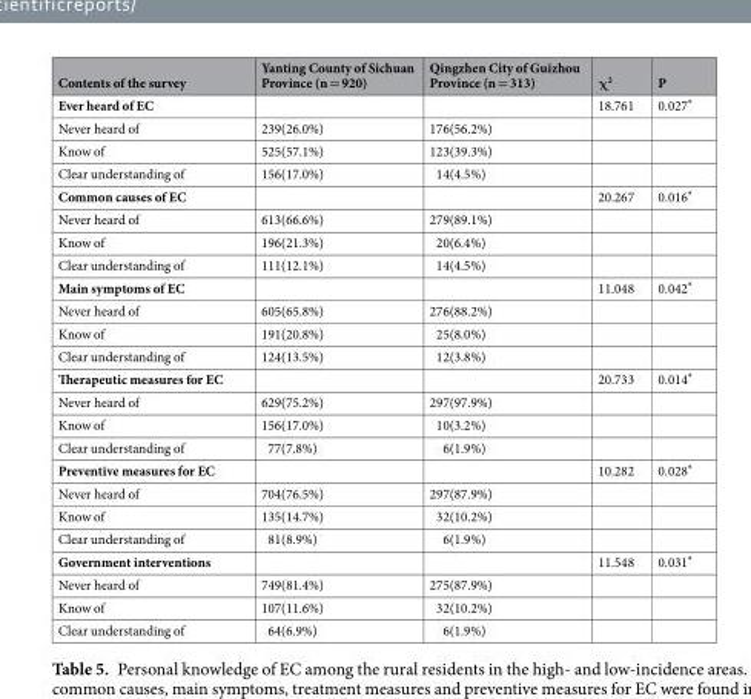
<table><thead><tr><td>Contents of the survey</td><td>Yanting County of Sichuan Province (n = 920)</td><td>Qingzhen City of Guizhou Province (n = 313)</td><td>χ<sup>2</sup></td><td>P</td></tr></thead><tbody><tr><td>Ever heard of EC</td><td></td><td></td><td>18.761</td><td>0.027*</td></tr><tr><td>Never heard of</td><td>239(26.0%)</td><td>176(56.2%)</td><td></td><td></td></tr><tr><td>Know of</td><td>525(57.1%)</td><td>123(39.3%)</td><td></td><td></td></tr><tr><td>Clear understanding of</td><td>156(17.0%)</td><td>14(4.5%)</td><td></td><td></td></tr><tr><td>Common causes of EC</td><td></td><td></td><td>20.267</td><td>0.016*</td></tr><tr><td>Never heard of</td><td>613(66.6%)</td><td>279(89.1%)</td><td></td><td></td></tr><tr><td>Know of</td><td>196(21.3%)</td><td>20(6.4%)</td><td></td><td></td></tr><tr><td>Clear understanding of</td><td>111(12.1%)</td><td>14(4.5%)</td><td></td><td></td></tr><tr><td>Main symptoms of EC</td><td></td><td></td><td>11.048</td><td>0.042*</td></tr><tr><td>Never heard of</td><td>605(65.8%)</td><td>276(88.2%)</td><td></td><td></td></tr><tr><td>Know of</td><td>191(20.8%)</td><td>25(8.0%)</td><td></td><td></td></tr><tr><td>Clear understanding of</td><td>124(13.5%)</td><td>12(3.8%)</td><td></td><td></td></tr><tr><td>Therapeutic measures for EC</td><td></td><td></td><td>20.733</td><td>0.014*</td></tr><tr><td>Never heard of</td><td>629(75.2%)</td><td>297(97.9%)</td><td></td><td></td></tr><tr><td>Know of</td><td>156(17.0%)</td><td>10(3.2%)</td><td></td><td></td></tr><tr><td>Clear understanding of</td><td>77(7.8%)</td><td>6(1.9%)</td><td></td><td></td></tr><tr><td>Preventive measures for EC</td><td></td><td></td><td>10.282</td><td>0.028*</td></tr><tr><td>Never heard of</td><td>704(76.5%)</td><td>297(87.9%)</td><td></td><td></td></tr><tr><td>Know of</td><td>135(14.7%)</td><td>32(10.2%)</td><td></td><td></td></tr><tr><td>Clear understanding of</td><td>81(8.9%)</td><td>6(1.9%)</td><td></td><td></td></tr><tr><td>Government interventions</td><td></td><td></td><td>11.548</td><td>0.031*</td></tr><tr><td>Never heard of</td><td>749(81.4%)</td><td>275(87.9%)</td><td></td><td></td></tr><tr><td>Know of</td><td>107(11.6%)</td><td>32(10.2%)</td><td></td><td></td></tr><tr><td>Clear understanding of</td><td>64(6.9%)</td><td>6(1.9%)</td><td></td><td></td></tr></tbody></table>